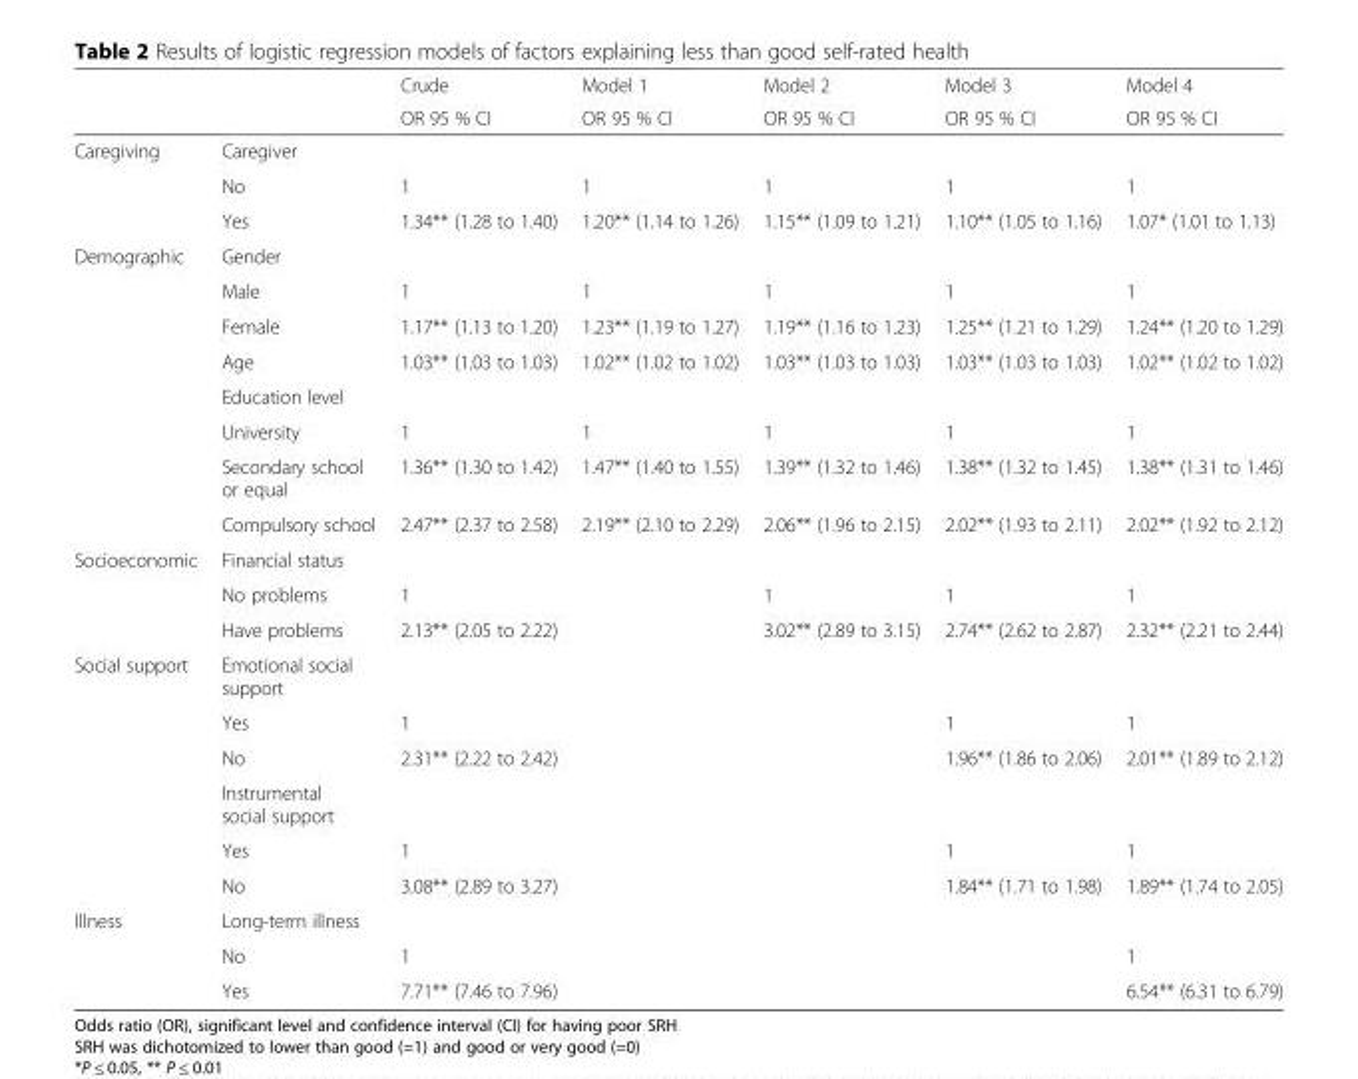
<table><thead><tr><td rowspan="2"></td><td rowspan="2"></td><td rowspan="2">Crude OR 95 % CI</td><td rowspan="2">Model 1 OR 95 % CI</td><td rowspan="2">Model 2 OR 95 % CI</td><td rowspan="2">Model 3 OR 95 % CI</td><td rowspan="2">Model 4 OR 95 % CI</td></tr><tr></tr></thead><tbody><tr><td rowspan="3">Caregiving</td><td>Caregiver</td><td></td><td></td><td></td><td></td><td></td></tr><tr><td>No</td><td>1</td><td>1</td><td>1</td><td>1</td><td>1</td></tr><tr><td>Yes</td><td>1.34** (1.28 to 1.40)</td><td>1.20** (1.14 to 1.26)</td><td>1.15** (1.09 to 1.21)</td><td>1.10** (1.05 to 1.16)</td><td>1.07* (1.01 to 1.13)</td></tr><tr><td rowspan="8">Demographic</td><td>Gender</td><td></td><td></td><td></td><td></td><td></td></tr><tr><td>Male</td><td>1</td><td>1</td><td>1</td><td>1</td><td>1</td></tr><tr><td>Female</td><td>1.17** (1.13 to 1.20)</td><td>1.23** (1.19 to 1.27)</td><td>1.19** (1.16 to 1.23)</td><td>1.25** (1.21 to 1.29)</td><td>1.24** (1.20 to 1.29)</td></tr><tr><td>Age</td><td>1.03** (1.03 to 1.03)</td><td>1.02** (1.02 to 1.02)</td><td>1.03** (1.03 to 1.03)</td><td>1.03** (1.03 to 1.03)</td><td>1.02** (1.02 to 1.02)</td></tr><tr><td>Education level</td><td></td><td></td><td></td><td></td><td></td></tr><tr><td>University</td><td>1</td><td>1</td><td>1</td><td>1</td><td>1</td></tr><tr><td>Secondary school or equal</td><td>1.36** (1.30 to 1.42)</td><td>1.47** (1.40 to 1.55)</td><td>1.39** (1.32 to 1.46)</td><td>1.38** (1.32 to 1.45)</td><td>1.38** (1.31 to 1.46)</td></tr><tr><td>Compulsory school</td><td>2.47** (2.37 to 2.58)</td><td>2.19** (2.10 to 2.29)</td><td>2.06** (1.96 to 2.15)</td><td>2.02** (1.93 to 2.11)</td><td>2.02** (1.92 to 2.12)</td></tr><tr><td rowspan="3">Socioeconomic</td><td>Financial status</td><td></td><td></td><td></td><td></td><td></td></tr><tr><td>No problems</td><td>1</td><td></td><td>1</td><td>1</td><td>1</td></tr><tr><td>Have problems</td><td>2.13** (2.05 to 2.22)</td><td></td><td>3.02** (2.89 to 3.15)</td><td>2.74** (2.62 to 2.87)</td><td>2.32** (2.21 to 2.44)</td></tr><tr><td rowspan="6">Social support</td><td>Emotional social support</td><td></td><td></td><td></td><td></td><td></td></tr><tr><td>Yes</td><td>1</td><td></td><td></td><td>1</td><td>1</td></tr><tr><td>No</td><td>2.31** (2.22 to 2.42)</td><td></td><td></td><td>1.96** (1.86 to 2.06)</td><td>2.01** (1.89 to 2.12)</td></tr><tr><td>Instrumental social support</td><td></td><td></td><td></td><td></td><td></td></tr><tr><td>Yes</td><td>1</td><td></td><td></td><td>1</td><td>1</td></tr><tr><td>No</td><td>3.08** (2.89 to 3.27)</td><td></td><td></td><td>1.84** (1.71 to 1.98)</td><td>1.89** (1.74 to 2.05)</td></tr><tr><td rowspan="3">Illness</td><td>Long-term illness</td><td></td><td></td><td></td><td></td><td></td></tr><tr><td>No</td><td>1</td><td></td><td></td><td></td><td>1</td></tr><tr><td>Yes</td><td>7.71** (7.46 to 7.96)</td><td></td><td></td><td></td><td>6.54** (6.31 to 6.79)</td></tr></tbody></table>